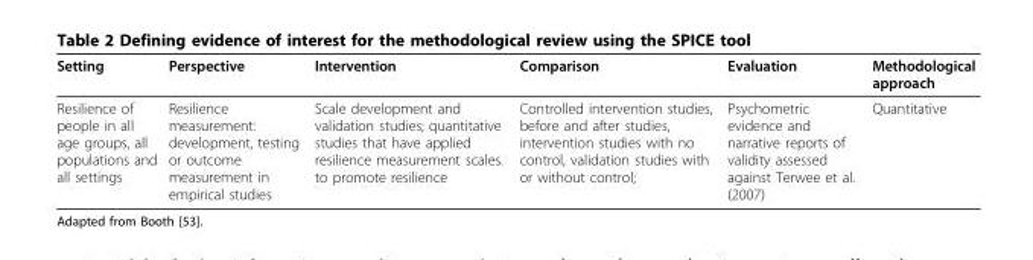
<table><thead><tr><td>Setting</td><td>Perspective</td><td>Intervention</td><td>Comparison</td><td>Evaluation</td><td>Methodological approach</td></tr></thead><tbody><tr><td>Resilience of people in all age groups, all populations and all settings</td><td>Resilience measurement: development, testing or outcome measurement in empirical studies</td><td>Scale development and validation studies; quantitative studies that have applied resilience measurement scales. to promote resilience</td><td>Controlled intervention studies, before and after studies, intervention studies with no control, validation studies with or without control;</td><td>Psychometric evidence and narrative reports of validity assessed against Terwee et al. (2007)</td><td>Quantitative</td></tr></tbody></table>